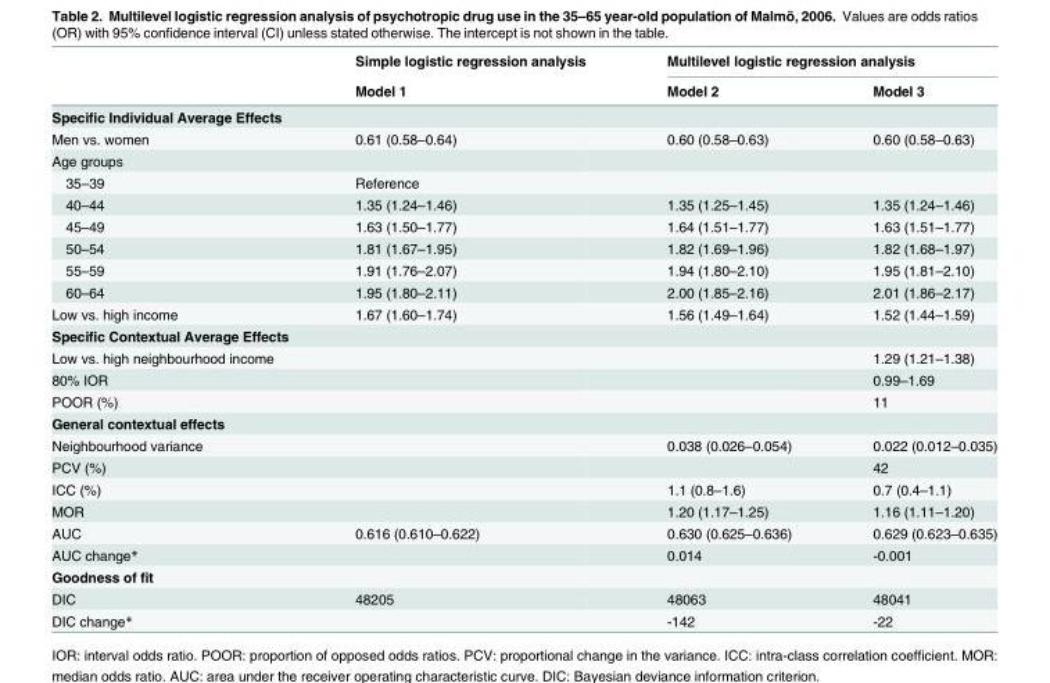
<table><thead><tr><td rowspan="2"></td><td rowspan="2">Simple logistic regression analysis Model 1</td><td colspan="2">Multilevel logistic regression analysis</td></tr><tr><td>Model 2</td><td>Model 3</td></tr></thead><tbody><tr><td colspan="4">Specific Individual Average Effects</td></tr><tr><td>Men vs. women</td><td>0.61 (0.58–0.64)</td><td>0.60 (0.58–0.63)</td><td>0.60 (0.58–0.63)</td></tr><tr><td colspan="4">Age groups</td></tr><tr><td>35–39</td><td>Reference</td><td></td><td></td></tr><tr><td>40–44</td><td>1.35 (1.24–1.46)</td><td>1.35 (1.25–1.45)</td><td>1.35 (1.24–1.46)</td></tr><tr><td>45–49</td><td>1.63 (1.50–1.77)</td><td>1.64 (1.51–1.77)</td><td>1.63 (1.51–1.77)</td></tr><tr><td>50–54</td><td>1.81 (1.67–1.95)</td><td>1.82 (1.69–1.96)</td><td>1.82 (1.68–1.97)</td></tr><tr><td>55–59</td><td>1.91 (1.76–2.07)</td><td>1.94 (1.80–2.10)</td><td>1.95 (1.81–2.10)</td></tr><tr><td>60–64</td><td>1.95 (1.80–2.11)</td><td>2.00 (1.85–2.16)</td><td>2.01 (1.86–2.17)</td></tr><tr><td>Low vs. high income</td><td>1.67 (1.60–1.74)</td><td>1.56 (1.49–1.64)</td><td>1.52 (1.44–1.59)</td></tr><tr><td colspan="4">Specific Contextual Average Effects</td></tr><tr><td>Low vs. high neighbourhood income</td><td></td><td></td><td>1.29 (1.21–1.38)</td></tr><tr><td>80% IOR</td><td></td><td></td><td>0.99–1.69</td></tr><tr><td>POOR (%)</td><td></td><td></td><td>11</td></tr><tr><td colspan="4">General contextual effects</td></tr><tr><td>Neighbourhood variance</td><td></td><td>0.038 (0.026–0.054)</td><td>0.022 (0.012–0.035)</td></tr><tr><td>PCV (%)</td><td></td><td></td><td>42</td></tr><tr><td>ICC (%)</td><td></td><td>1.1 (0.8–1.6)</td><td>0.7 (0.4–1.1)</td></tr><tr><td>MOR</td><td></td><td>1.20 (1.17–1.25)</td><td>1.16 (1.11–1.20)</td></tr><tr><td>AUC</td><td>0.616 (0.610–0.622)</td><td>0.630 (0.625–0.636)</td><td>0.629 (0.623–0.635)</td></tr><tr><td>AUC change*</td><td></td><td>0.014</td><td>-0.001</td></tr><tr><td colspan="4">Goodness of fit</td></tr><tr><td>DIC</td><td>48205</td><td>48063</td><td>48041</td></tr><tr><td colspan="2">DIC change*</td><td>-142</td><td>-22</td></tr></tbody></table>